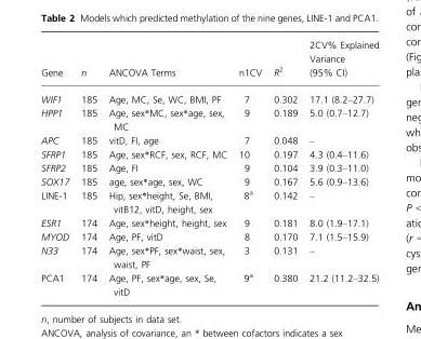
<table><thead><tr><td>Gene</td><td>n</td><td>ANCOVA Terms</td><td>n1CV</td><td>R<sup>2</sup></td><td>2CV% Explained Variance (95% CI)</td></tr></thead><tbody><tr><td>WIF1</td><td>185</td><td>Age, MC, Se, WC, BMI, PF</td><td>7</td><td>0.302</td><td>17.1 (8.2–27.7)</td></tr><tr><td>HPP1</td><td>185</td><td>Age, sex*MC, sex*age, sex, MC</td><td>9</td><td>0.189</td><td>5.0 (0.7–12.7)</td></tr><tr><td>APC</td><td>185</td><td>vitD, FI, age</td><td>7</td><td>0.048</td><td>–</td></tr><tr><td>SFRP1</td><td>185</td><td>Age, sex*RCF, sex, RCF, MC</td><td>10</td><td>0.197</td><td>4.3 (0.4–11.6)</td></tr><tr><td>SFRP2</td><td>185</td><td>Age, FI</td><td>9</td><td>0.104</td><td>3.9 (0.3–11.0)</td></tr><tr><td>SOX17</td><td>185</td><td>age, sex*age, sex, WC</td><td>9</td><td>0.167</td><td>5.6 (0.9–13.6)</td></tr><tr><td>LINE-1</td><td>185</td><td>Hip, sex*height, Se, BMI, vitB12, vitD, height, sex</td><td>8<sup>a</sup></td><td>0.142</td><td>–</td></tr><tr><td>ESR1</td><td>174</td><td>Age, sex*height, height, sex</td><td>9</td><td>0.181</td><td>8.0 (1.9–17.1)</td></tr><tr><td>MYOD</td><td>174</td><td>Age, PF, vitD</td><td>8</td><td>0.170</td><td>7.1 (1.5–15.9)</td></tr><tr><td>N33</td><td>174</td><td>Age, sex*PF, sex*waist, sex, waist, PF</td><td>3</td><td>0.131</td><td>–</td></tr><tr><td>PCA1</td><td>174</td><td>Age, PF, sex*age, sex, Se, vitD</td><td>9<sup>a</sup></td><td>0.380</td><td>21.2 (11.2–32.5)</td></tr></tbody></table>